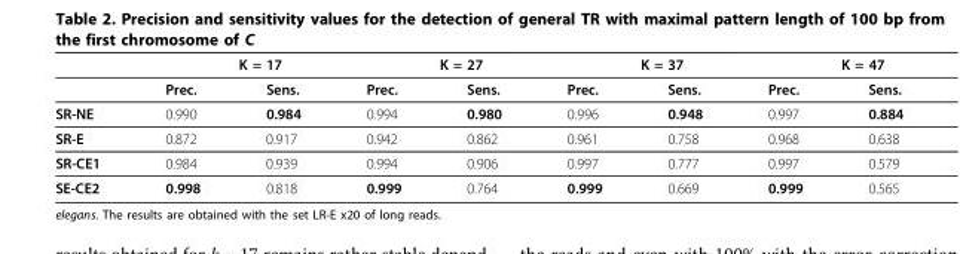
<table><thead><tr><td rowspan="2"></td><td colspan="2">K = 17</td><td colspan="2">K = 27</td><td colspan="2">K = 37</td><td colspan="2">K = 47</td></tr><tr><td>Prec.</td><td>Sens.</td><td>Prec.</td><td>Sens.</td><td>Prec.</td><td>Sens.</td><td>Prec.</td><td>Sens.</td></tr></thead><tbody><tr><td>SR-NE</td><td>0.990</td><td>0.984</td><td>0.994</td><td>0.980</td><td>0.996</td><td>0.948</td><td>0.997</td><td>0.884</td></tr><tr><td>SR-E</td><td>0.872</td><td>0.917</td><td>0.942</td><td>0.862</td><td>0.961</td><td>0.758</td><td>0.968</td><td>0.638</td></tr><tr><td>SR-CE1</td><td>0.984</td><td>0.939</td><td>0.994</td><td>0.906</td><td>0.997</td><td>0.777</td><td>0.997</td><td>0.579</td></tr><tr><td>SE-CE2</td><td>0.998</td><td>0.818</td><td>0.999</td><td>0.764</td><td>0.999</td><td>0.669</td><td>0.999</td><td>0.565</td></tr></tbody></table>